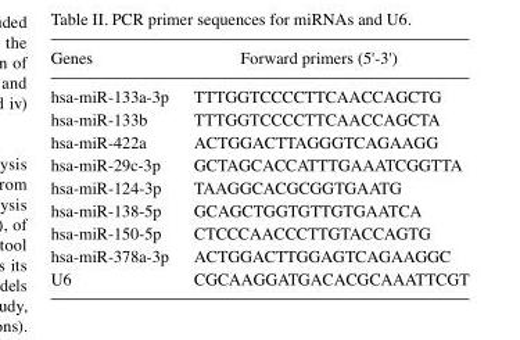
<table><thead><tr><td>Genes</td><td>Forward primers (5&#x27;-3&#x27;)</td></tr></thead><tbody><tr><td>hsa-miR-133a-3p</td><td>TTTGGTCCCCTTCAACCAGCTG</td></tr><tr><td>hsa-miR-133b</td><td>TTTGGTCCCCTTCAACCAGCTA</td></tr><tr><td>hsa-miR-422a</td><td>ACTGGACTTAGGGTCAGAAGG</td></tr><tr><td>hsa-miR-29c-3p</td><td>GCTAGCACCATTTGAAATCGGTTA</td></tr><tr><td>hsa-miR-124-3p</td><td>TAAGGCACGCGGTGAATG</td></tr><tr><td>hsa-miR-138-5p</td><td>GCAGCTGGTGTTGTGAATCA</td></tr><tr><td>hsa-miR-150-5p</td><td>CTCCCAACCCTTGTACCAGTG</td></tr><tr><td>hsa-miR-378a-3p</td><td>ACTGGACTTGGAGTCAGAAGGC</td></tr><tr><td>U6</td><td>CGCAAGGATGACACGCAAATTCGT</td></tr></tbody></table>